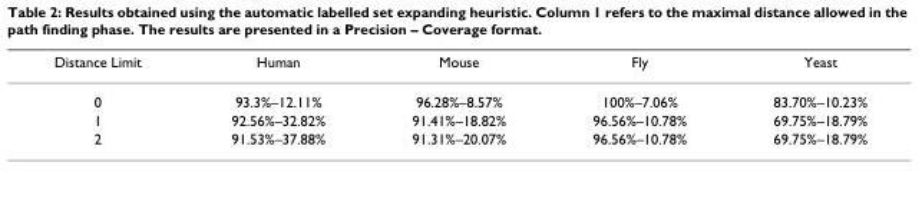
<table><thead><tr><td>Distance Limit</td><td>Human</td><td>Mouse</td><td>Fly</td><td>Yeast</td></tr></thead><tbody><tr><td>0</td><td>93.3%–12.11%</td><td>96.28%–8.57%</td><td>100%–7.06%</td><td>83.70%–10.23%</td></tr><tr><td>1</td><td>92.56%–32.82%</td><td>91.41%–18.82%</td><td>96.56%–10.78%</td><td>69.75%–18.79%</td></tr><tr><td>2</td><td>91.53%–37.88%</td><td>91.31%–20.07%</td><td>96.56%–10.78%</td><td>69.75%–18.79%</td></tr></tbody></table>